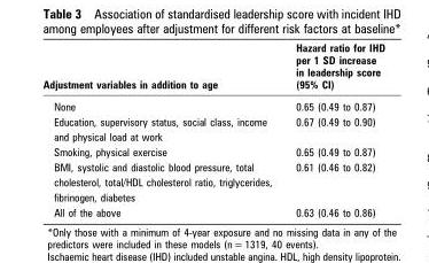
<table><thead><tr><td>Adjustment variables in addition to age</td><td>Hazard ratio for IHD per 1 SD increase in leadership score (95% CI)</td></tr></thead><tbody><tr><td>None</td><td>0.65 (0.49 to 0.87)</td></tr><tr><td>Education, supervisory status, social class, income</td><td>0.67 (0.49 to 0.90)</td></tr><tr><td colspan="2">and physical load at work</td></tr><tr><td>Smoking, physical exercise</td><td>0.65 (0.49 to 0.87)</td></tr><tr><td>BMI, systolic and diastolic blood pressure, total</td><td>0.61 (0.46 to 0.82)</td></tr><tr><td colspan="2">cholesterol, total/HDL cholesterol ratio, triglycerides,</td></tr><tr><td colspan="2">fibrinogen, diabetes</td></tr><tr><td>All of the above</td><td>0.63 (0.46 to 0.86)</td></tr></tbody></table>